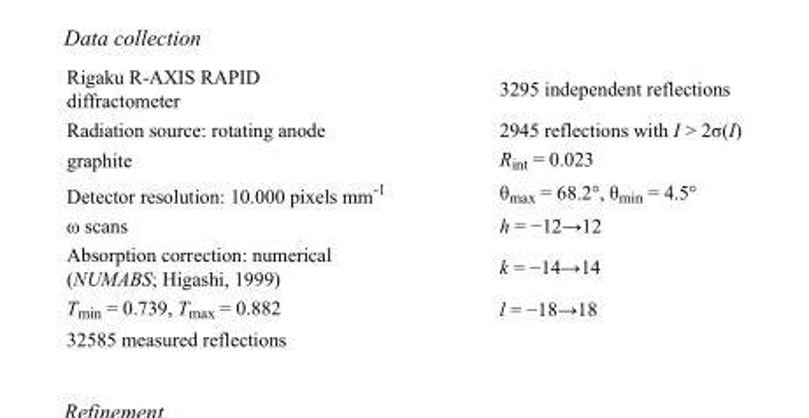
<table><tbody><tr><td>Rigaku R-AXIS RAPID diffractometer</td><td>3295 independent reflections</td></tr><tr><td>Radiation source: rotating anode</td><td>2945 reflections with I &gt; 2σ(I)</td></tr><tr><td>graphite</td><td>R<sub>int</sub> = 0.023</td></tr><tr><td>Detector resolution: 10.000 pixels mm<sup>-1</sup></td><td>θ<sub>max</sub> = 68.2°, θ<sub>min</sub> = 4.5°</td></tr><tr><td>ω scans</td><td>h = −12→12</td></tr><tr><td>Absorption correction: numerical (NUMABS; Higashi, 1999)</td><td>k = −14→14</td></tr><tr><td>T<sub>min</sub> = 0.739, T<sub>max</sub> = 0.882</td><td>l = −18→18</td></tr><tr><td>32585 measured reflections</td><td></td></tr></tbody></table>